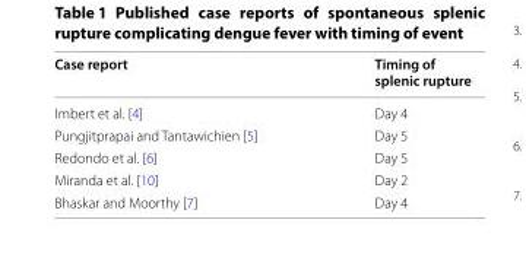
<table><thead><tr><td>Case report</td><td>Timing of splenic rupture</td></tr></thead><tbody><tr><td>Imbert et al. [4]</td><td>Day 4</td></tr><tr><td>Pungjitprapai and Tantawichien [5]</td><td>Day 5</td></tr><tr><td>Redondo et al. [6]</td><td>Day 5</td></tr><tr><td>Miranda et al. [10]</td><td>Day 2</td></tr><tr><td>Bhaskar and Moorthy [7]</td><td>Day 4</td></tr></tbody></table>